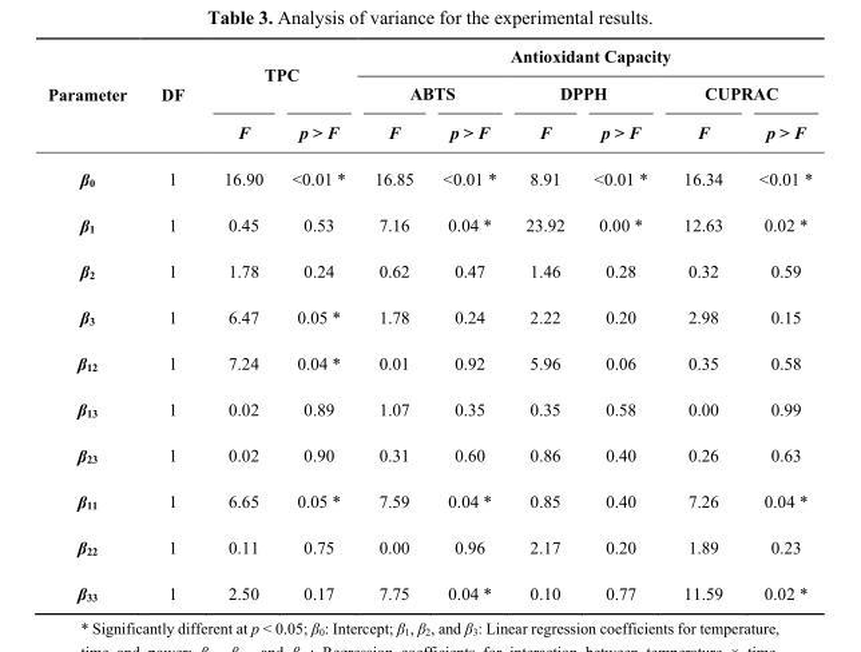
<table><thead><tr><td rowspan="3">Parameter</td><td rowspan="3">DF</td><td rowspan="2" colspan="2">TPC</td><td colspan="6">Antioxidant Capacity</td></tr><tr><td colspan="2">ABTS</td><td colspan="2">DPPH</td><td colspan="2">CUPRAC</td></tr><tr><td>F</td><td>p &gt; F</td><td>F</td><td>p &gt; F</td><td>F</td><td>p &gt; F</td><td>F</td><td>p &gt; F</td></tr></thead><tbody><tr><td>β<sub>0</sub></td><td>1</td><td>16.90</td><td>&lt;0.01 *</td><td>16.85</td><td>&lt;0.01 *</td><td>8.91</td><td>&lt;0.01 *</td><td>16.34</td><td>&lt;0.01 *</td></tr><tr><td>β<sub>1</sub></td><td>1</td><td>0.45</td><td>0.53</td><td>7.16</td><td>0.04 *</td><td>23.92</td><td>0.00 *</td><td>12.63</td><td>0.02 *</td></tr><tr><td>β<sub>2</sub></td><td>1</td><td>1.78</td><td>0.24</td><td>0.62</td><td>0.47</td><td>1.46</td><td>0.28</td><td>0.32</td><td>0.59</td></tr><tr><td>β<sub>3</sub></td><td>1</td><td>6.47</td><td>0.05 *</td><td>1.78</td><td>0.24</td><td>2.22</td><td>0.20</td><td>2.98</td><td>0.15</td></tr><tr><td>β<sub>12</sub></td><td>1</td><td>7.24</td><td>0.04 *</td><td>0.01</td><td>0.92</td><td>5.96</td><td>0.06</td><td>0.35</td><td>0.58</td></tr><tr><td>β<sub>13</sub></td><td>1</td><td>0.02</td><td>0.89</td><td>1.07</td><td>0.35</td><td>0.35</td><td>0.58</td><td>0.00</td><td>0.99</td></tr><tr><td>β<sub>23</sub></td><td>1</td><td>0.02</td><td>0.90</td><td>0.31</td><td>0.60</td><td>0.86</td><td>0.40</td><td>0.26</td><td>0.63</td></tr><tr><td>β<sub>11</sub></td><td>1</td><td>6.65</td><td>0.05 *</td><td>7.59</td><td>0.04 *</td><td>0.85</td><td>0.40</td><td>7.26</td><td>0.04 *</td></tr><tr><td>β<sub>22</sub></td><td>1</td><td>0.11</td><td>0.75</td><td>0.00</td><td>0.96</td><td>2.17</td><td>0.20</td><td>1.89</td><td>0.23</td></tr><tr><td>β<sub>33</sub></td><td>1</td><td>2.50</td><td>0.17</td><td>7.75</td><td>0.04 *</td><td>0.10</td><td>0.77</td><td>11.59</td><td>0.02 *</td></tr></tbody></table>